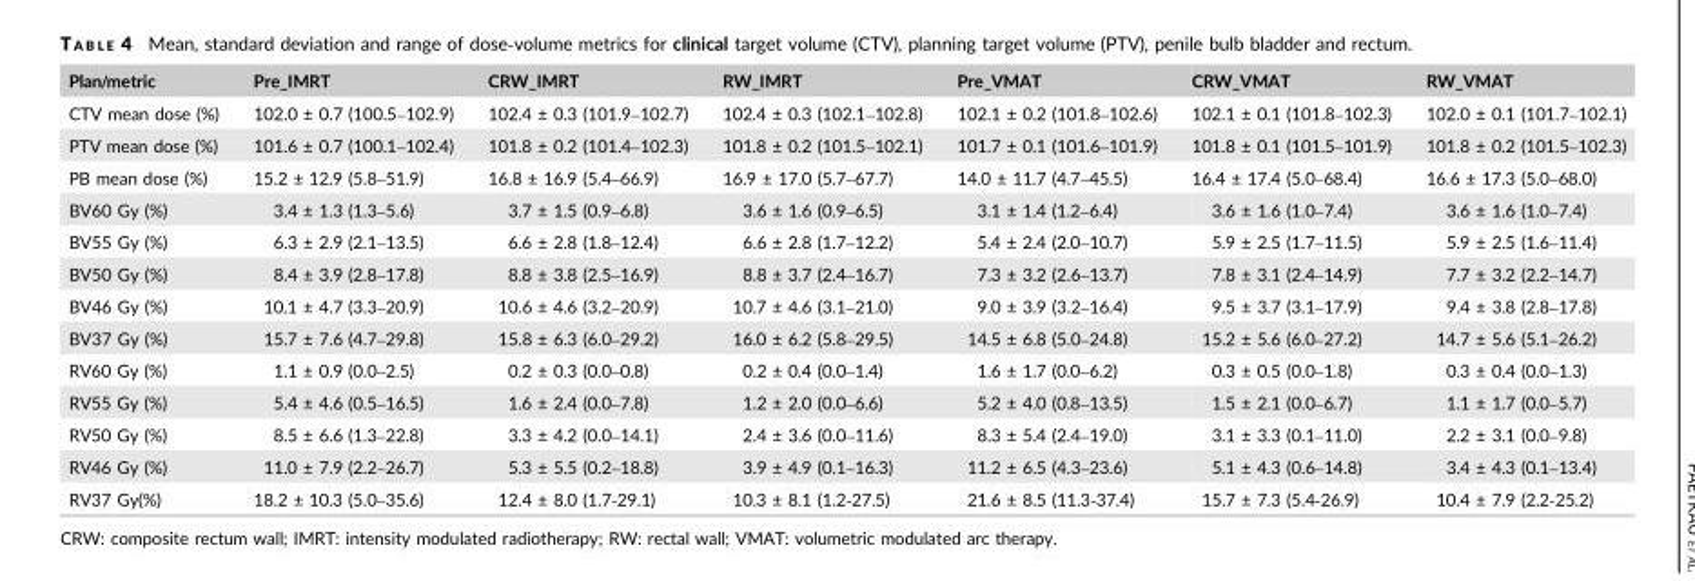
<table><thead><tr><td>Plan/metric</td><td>Pre_IMRT</td><td>CRW_IMRT</td><td>RW_IMRT</td><td>Pre_VMAT</td><td>CRW_VMAT</td><td>RW_VMAT</td></tr></thead><tbody><tr><td>CTV mean dose (%)</td><td>102.0 ± 0.7 (100.5–102.9)</td><td>102.4 ± 0.3 (101.9–102.7)</td><td>102.4 ± 0.3 (102.1–102.8)</td><td>102.1 ± 0.2 (101.8–102.6)</td><td>102.1 ± 0.1 (101.8–102.3)</td><td>102.0 ± 0.1 (101.7–102.1)</td></tr><tr><td>PTV mean dose (%)</td><td>101.6 ± 0.7 (100.1–102.4)</td><td>101.8 ± 0.2 (101.4–102.3)</td><td>101.8 ± 0.2 (101.5–102.1)</td><td>101.7 ± 0.1 (101.6–101.9)</td><td>101.8 ± 0.1 (101.5–101.9)</td><td>101.8 ± 0.2 (101.5–102.3)</td></tr><tr><td>PB mean dose (%)</td><td>15.2 ± 12.9 (5.8–51.9)</td><td>16.8 ± 16.9 (5.4–66.9)</td><td>16.9 ± 17.0 (5.7–67.7)</td><td>14.0 ± 11.7 (4.7–45.5)</td><td>16.4 ± 17.4 (5.0–68.4)</td><td>16.6 ± 17.3 (5.0–68.0)</td></tr><tr><td>BV60 Gy (%)</td><td>3.4 ± 1.3 (1.3–5.6)</td><td>3.7 ± 1.5 (0.9–6.8)</td><td>3.6 ± 1.6 (0.9–6.5)</td><td>3.1 ± 1.4 (1.2–6.4)</td><td>3.6 ± 1.6 (1.0–7.4)</td><td>3.6 ± 1.6 (1.0–7.4)</td></tr><tr><td>BV55 Gy (%)</td><td>6.3 ± 2.9 (2.1–13.5)</td><td>6.6 ± 2.8 (1.8–12.4)</td><td>6.6 ± 2.8 (1.7–12.2)</td><td>5.4 ± 2.4 (2.0–10.7)</td><td>5.9 ± 2.5 (1.7–11.5)</td><td>5.9 ± 2.5 (1.6–11.4)</td></tr><tr><td>BV50 Gy (%)</td><td>8.4 ± 3.9 (2.8–17.8)</td><td>8.8 ± 3.8 (2.5–16.9)</td><td>8.8 ± 3.7 (2.4–16.7)</td><td>7.3 ± 3.2 (2.6–13.7)</td><td>7.8 ± 3.1 (2.4–14.9)</td><td>7.7 ± 3.2 (2.2–14.7)</td></tr><tr><td>BV46 Gy (%)</td><td>10.1 ± 4.7 (3.3–20.9)</td><td>10.6 ± 4.6 (3.2–20.9)</td><td>10.7 ± 4.6 (3.1–21.0)</td><td>9.0 ± 3.9 (3.2–16.4)</td><td>9.5 ± 3.7 (3.1–17.9)</td><td>9.4 ± 3.8 (2.8–17.8)</td></tr><tr><td>BV37 Gy (%)</td><td>15.7 ± 7.6 (4.7–29.8)</td><td>15.8 ± 6.3 (6.0–29.2)</td><td>16.0 ± 6.2 (5.8–29.5)</td><td>14.5 ± 6.8 (5.0–24.8)</td><td>15.2 ± 5.6 (6.0–27.2)</td><td>14.7 ± 5.6 (5.1–26.2)</td></tr><tr><td>RV60 Gy (%)</td><td>1.1 ± 0.9 (0.0–2.5)</td><td>0.2 ± 0.3 (0.0–0.8)</td><td>0.2 ± 0.4 (0.0–1.4)</td><td>1.6 ± 1.7 (0.0–6.2)</td><td>0.3 ± 0.5 (0.0–1.8)</td><td>0.3 ± 0.4 (0.0–1.3)</td></tr><tr><td>RV55 Gy (%)</td><td>5.4 ± 4.6 (0.5–16.5)</td><td>1.6 ± 2.4 (0.0–7.8)</td><td>1.2 ± 2.0 (0.0–6.6)</td><td>5.2 ± 4.0 (0.8–13.5)</td><td>1.5 ± 2.1 (0.0–6.7)</td><td>1.1 ± 1.7 (0.0–5.7)</td></tr><tr><td>RV50 Gy (%)</td><td>8.5 ± 6.6 (1.3–22.8)</td><td>3.3 ± 4.2 (0.0–14.1)</td><td>2.4 ± 3.6 (0.0–11.6)</td><td>8.3 ± 5.4 (2.4–19.0)</td><td>3.1 ± 3.3 (0.1–11.0)</td><td>2.2 ± 3.1 (0.0–9.8)</td></tr><tr><td>RV46 Gy (%)</td><td>11.0 ± 7.9 (2.2–26.7)</td><td>5.3 ± 5.5 (0.2–18.8)</td><td>3.9 ± 4.9 (0.1–16.3)</td><td>11.2 ± 6.5 (4.3–23.6)</td><td>5.1 ± 4.3 (0.6–14.8)</td><td>3.4 ± 4.3 (0.1–13.4)</td></tr><tr><td>RV37 Gy(%)</td><td>18.2 ± 10.3 (5.0–35.6)</td><td>12.4 ± 8.0 (1.7‐29.1)</td><td>10.3 ± 8.1 (1.2‐27.5)</td><td>21.6 ± 8.5 (11.3‐37.4)</td><td>15.7 ± 7.3 (5.4‐26.9)</td><td>10.4 ± 7.9 (2.2‐25.2)</td></tr></tbody></table>